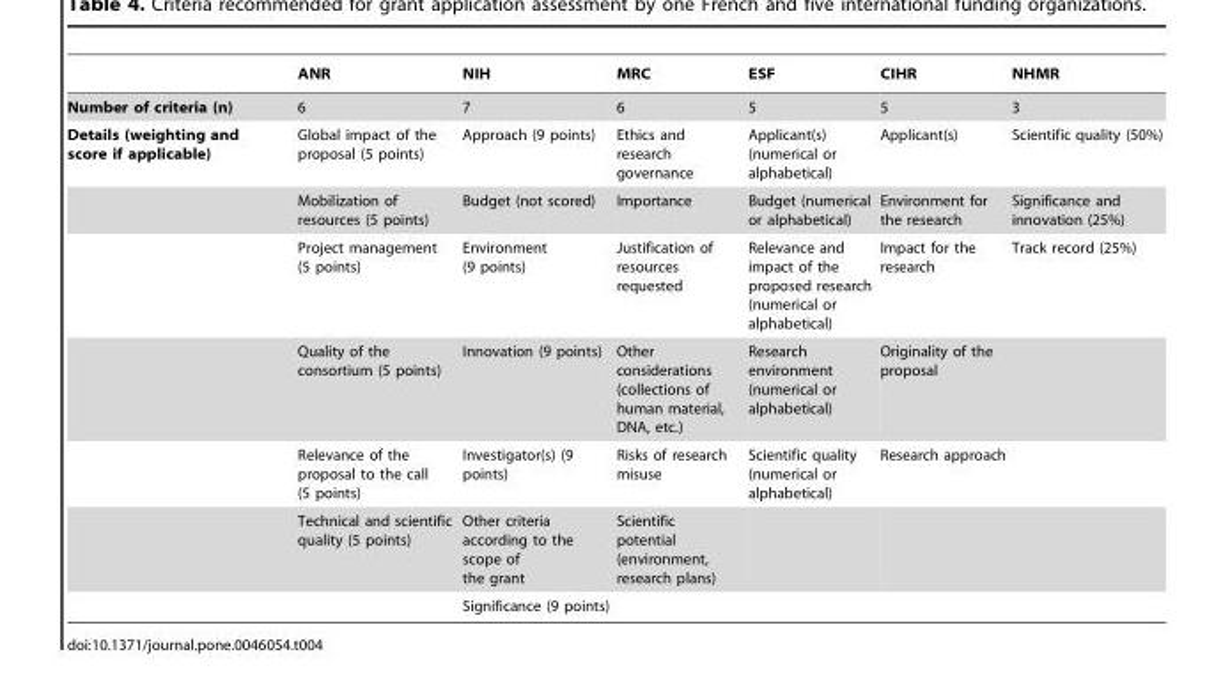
<table><thead><tr><td></td><td>ANR</td><td>NIH</td><td>MRC</td><td>ESF</td><td>CIHR</td><td>NHMR</td></tr></thead><tbody><tr><td>Number of criteria (n)</td><td>6</td><td>7</td><td>6</td><td>5</td><td>5</td><td>3</td></tr><tr><td rowspan="7">Details (weighting and score if applicable)</td><td>Global impact of the proposal (5 points)</td><td>Approach (9 points)</td><td>Ethics and research governance</td><td>Applicant(s) (numerical or alphabetical)</td><td>Applicant(s)</td><td>Scientific quality (50%)</td></tr><tr><td>Mobilization of resources (5 points)</td><td>Budget (not scored)</td><td>Importance</td><td>Budget (numerical or alphabetical)</td><td>Environment for the research</td><td>Significance and innovation (25%)</td></tr><tr><td>Project management (5 points)</td><td>Environment (9 points)</td><td>Justification of resources requested</td><td>Relevance and impact of the proposed research (numerical or alphabetical)</td><td>Impact for the research</td><td>Track record (25%)</td></tr><tr><td>Quality of the consortium (5 points)</td><td>Innovation (9 points)</td><td>Other considerations (collections of human material, DNA, etc.)</td><td>Research environment (numerical or alphabetical)</td><td>Originality of the proposal</td><td></td></tr><tr><td>Relevance of the proposal to the call (5 points)</td><td>Investigator(s) (9 points)</td><td>Risks of research misuse</td><td>Scientific quality (numerical or alphabetical)</td><td>Research approach</td><td></td></tr><tr><td>Technical and scientific quality (5 points)</td><td>Other criteria according to the scope of the grant</td><td>Scientific potential (environment, research plans)</td><td></td><td></td><td></td></tr><tr><td></td><td>Significance (9 points)</td><td></td><td></td><td></td><td></td></tr></tbody></table>